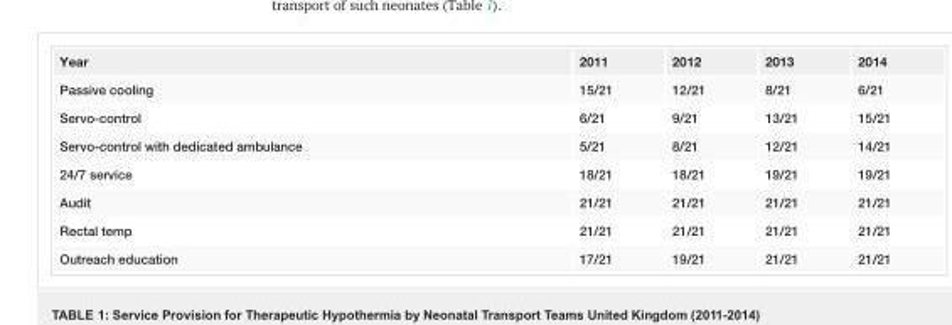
<table><tbody><tr><td>Year</td><td>2011</td><td>2012</td><td>2013</td><td>2014</td></tr><tr><td>Passive cooling</td><td>15/21</td><td>12/21</td><td>8/21</td><td>6/21</td></tr><tr><td>Servo-control</td><td>6/21</td><td>9/21</td><td>13/21</td><td>15/21</td></tr><tr><td>Servo-control with dedicated ambulance</td><td>5/21</td><td>8/21</td><td>12/21</td><td>14/21</td></tr><tr><td>24/7 service</td><td>18/21</td><td>18/21</td><td>19/21</td><td>19/21</td></tr><tr><td>Audit</td><td>21/21</td><td>21/21</td><td>21/21</td><td>21/21</td></tr><tr><td>Rectal temp</td><td>21/21</td><td>21/21</td><td>21/21</td><td>21/21</td></tr><tr><td>Outreach education</td><td>17/21</td><td>19/21</td><td>21/21</td><td>21/21</td></tr></tbody></table>